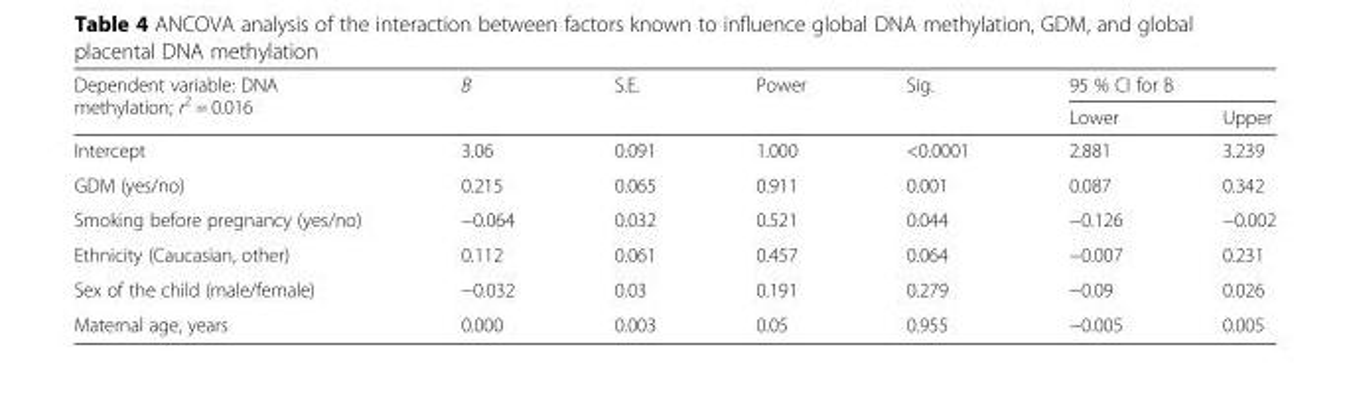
<table><thead><tr><td rowspan="2">Dependent variable: DNA methylation; r<sup>2</sup> = 0.016</td><td rowspan="2">B</td><td rowspan="2">S.E.</td><td rowspan="2">Power</td><td rowspan="2">Sig.</td><td colspan="2">95 % CI for B</td></tr><tr><td>Lower</td><td>Upper</td></tr></thead><tbody><tr><td>Intercept</td><td>3.06</td><td>0.091</td><td>1.000</td><td>&lt;0.0001</td><td>2.881</td><td>3.239</td></tr><tr><td>GDM (yes/no)</td><td>0.215</td><td>0.065</td><td>0.911</td><td>0.001</td><td>0.087</td><td>0.342</td></tr><tr><td>Smoking before pregnancy (yes/no)</td><td>−0.064</td><td>0.032</td><td>0.521</td><td>0.044</td><td>−0.126</td><td>−0.002</td></tr><tr><td>Ethnicity (Caucasian, other)</td><td>0.112</td><td>0.061</td><td>0.457</td><td>0.064</td><td>−0.007</td><td>0.231</td></tr><tr><td>Sex of the child (male/female)</td><td>−0.032</td><td>0.03</td><td>0.191</td><td>0.279</td><td>−0.09</td><td>0.026</td></tr><tr><td>Maternal age, years</td><td>0.000</td><td>0.003</td><td>0.05</td><td>0.955</td><td>−0.005</td><td>0.005</td></tr></tbody></table>